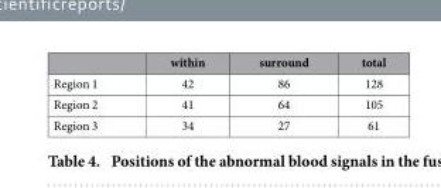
<table><thead><tr><td></td><td>within</td><td>surround</td><td>total</td></tr></thead><tbody><tr><td>Region 1</td><td>42</td><td>86</td><td>128</td></tr><tr><td>Region 2</td><td>41</td><td>64</td><td>105</td></tr><tr><td>Region 3</td><td>34</td><td>27</td><td>61</td></tr></tbody></table>